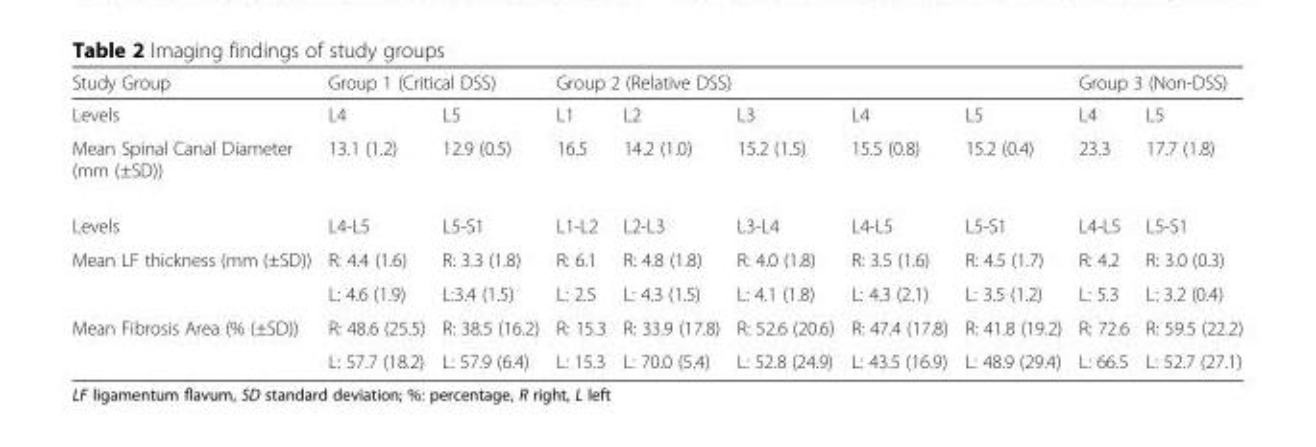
<table><thead><tr><td rowspan="2">Study Group Levels</td><td colspan="2">Group 1 (Critical DSS)</td><td colspan="5">Group 2 (Relative DSS)</td><td colspan="2">Group 3 (Non-DSS)</td></tr><tr><td>L4</td><td>L5</td><td>L1</td><td>L2</td><td>L3</td><td>L4</td><td>L5</td><td>L4</td><td>L5</td></tr></thead><tbody><tr><td>Mean Spinal Canal Diameter (mm (±SD))</td><td>13.1 (1.2)</td><td>12.9 (0.5)</td><td>16.5</td><td>14.2 (1.0)</td><td>15.2 (1.5)</td><td>15.5 (0.8)</td><td>15.2 (0.4)</td><td>23.3</td><td>17.7 (1.8)</td></tr><tr><td>Levels</td><td>L4-L5</td><td>L5-S1</td><td>L1-L2</td><td>L2-L3</td><td>L3-L4</td><td>L4-L5</td><td>L5-S1</td><td>L4-L5</td><td>L5-S1</td></tr><tr><td rowspan="2">Mean LF thickness (mm (±SD))</td><td>R: 4.4 (1.6)</td><td>R: 3.3 (1.8)</td><td>R: 6.1</td><td>R: 4.8 (1.8)</td><td>R: 4.0 (1.8)</td><td>R: 3.5 (1.6)</td><td>R: 4.5 (1.7)</td><td>R: 4.2</td><td>R: 3.0 (0.3)</td></tr><tr><td>L: 4.6 (1.9)</td><td>L:3.4 (1.5)</td><td>L: 2.5</td><td>L: 4.3 (1.5)</td><td>L: 4.1 (1.8)</td><td>L: 4.3 (2.1)</td><td>L: 3.5 (1.2)</td><td>L: 5.3</td><td>L: 3.2 (0.4)</td></tr><tr><td rowspan="2">Mean Fibrosis Area (% (±SD))</td><td>R: 48.6 (25.5)</td><td>R: 38.5 (16.2)</td><td>R: 15.3</td><td>R: 33.9 (17.8)</td><td>R: 52.6 (20.6)</td><td>R: 47.4 (17.8)</td><td>R: 41.8 (19.2)</td><td>R: 72.6</td><td>R: 59.5 (22.2)</td></tr><tr><td>L: 57.7 (18.2)</td><td>L: 57.9 (6.4)</td><td>L: 15.3</td><td>L: 70.0 (5.4)</td><td>L: 52.8 (24.9)</td><td>L: 43.5 (16.9)</td><td>L: 48.9 (29.4)</td><td>L: 66.5</td><td>L: 52.7 (27.1)</td></tr></tbody></table>